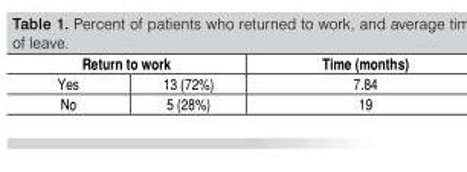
<table><thead><tr><td colspan="2">Return to work</td><td rowspan="2">Time (months) 7.84</td></tr><tr><td>Yes</td><td>13 (72%)</td></tr></thead><tbody><tr><td>No</td><td>5 (28%)</td><td>19</td></tr></tbody></table>